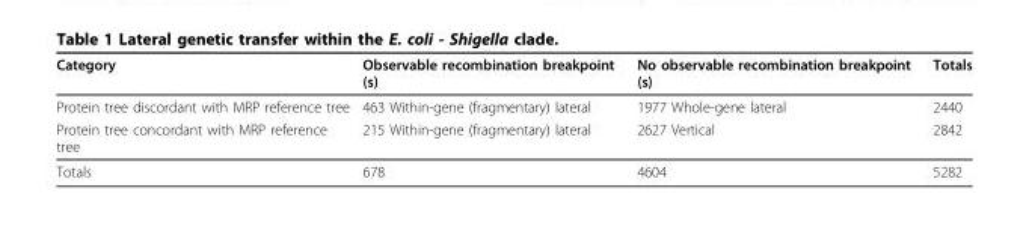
<table><thead><tr><td>Category</td><td>Observable recombination breakpoint (s)</td><td>No observable recombination breakpoint (s)</td><td>Totals</td></tr></thead><tbody><tr><td>Protein tree discordant with MRP reference tree</td><td>463 Within-gene (fragmentary) lateral</td><td>1977 Whole-gene lateral</td><td>2440</td></tr><tr><td>Protein tree concordant with MRP reference tree</td><td>215 Within-gene (fragmentary) lateral</td><td>2627 Vertical</td><td>2842</td></tr><tr><td>Totals</td><td>678</td><td>4604</td><td>5282</td></tr></tbody></table>